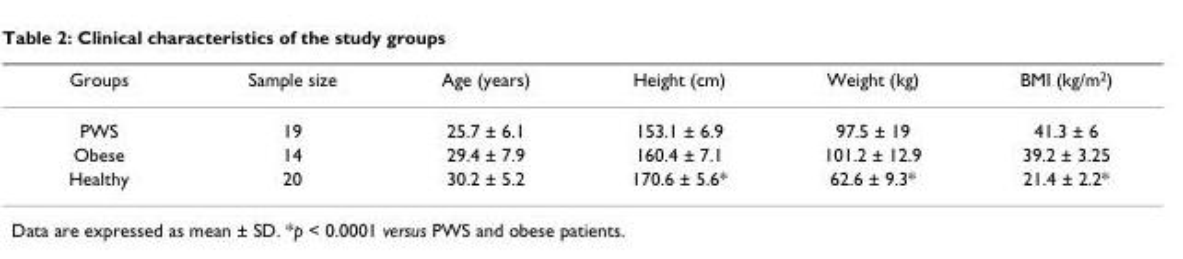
<table><thead><tr><td>Groups</td><td>Sample size</td><td>Age (years)</td><td>Height (cm)</td><td>Weight (kg)</td><td>BMI (kg/m<sup>2</sup>)</td></tr></thead><tbody><tr><td>PWS</td><td>19</td><td>25.7 ± 6.1</td><td>153.1 ± 6.9</td><td>97.5 ± 19</td><td>41.3 ± 6</td></tr><tr><td>Obese</td><td>14</td><td>29.4 ± 7.9</td><td>160.4 ± 7.1</td><td>101.2 ± 12.9</td><td>39.2 ± 3.25</td></tr><tr><td>Healthy</td><td>20</td><td>30.2 ± 5.2</td><td>170.6 ± 5.6*</td><td>62.6 ± 9.3*</td><td>21.4 ± 2.2*</td></tr></tbody></table>